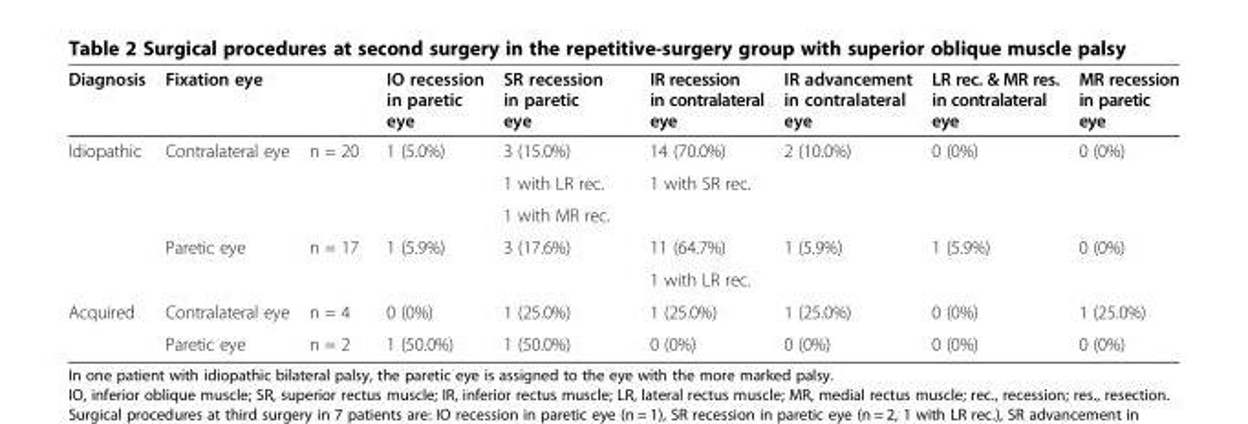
<table><thead><tr><td>Diagnosis</td><td>Fixation eye</td><td></td><td>IO recession in paretic eye</td><td>SR recession in paretic eye</td><td>IR recession in contralateral eye</td><td>IR advancement in contralateral eye</td><td>LR rec. &amp; MR res. in contralateral eye</td><td>MR recession in paretic eye</td></tr></thead><tbody><tr><td rowspan="5">Idiopathic</td><td>Contralateral eye</td><td>n = 20</td><td>1 (5.0%)</td><td>3 (15.0%)</td><td>14 (70.0%)</td><td>2 (10.0%)</td><td>0 (0%)</td><td>0 (0%)</td></tr><tr><td></td><td></td><td></td><td>1 with LR rec.</td><td>1 with SR rec.</td><td></td><td></td><td></td></tr><tr><td></td><td></td><td></td><td>1 with MR rec.</td><td></td><td></td><td></td><td></td></tr><tr><td>Paretic eye</td><td>n = 17</td><td>1 (5.9%)</td><td>3 (17.6%)</td><td>11 (64.7%)</td><td>1 (5.9%)</td><td>1 (5.9%)</td><td>0 (0%)</td></tr><tr><td></td><td></td><td></td><td></td><td>1 with LR rec.</td><td></td><td></td><td></td></tr><tr><td rowspan="2">Acquired</td><td>Contralateral eye</td><td>n = 4</td><td>0 (0%)</td><td>1 (25.0%)</td><td>1 (25.0%)</td><td>1 (25.0%)</td><td>0 (0%)</td><td>1 (25.0%)</td></tr><tr><td>Paretic eye</td><td>n = 2</td><td>1 (50.0%)</td><td>1 (50.0%)</td><td>0 (0%)</td><td>0 (0%)</td><td>0 (0%)</td><td>0 (0%)</td></tr></tbody></table>